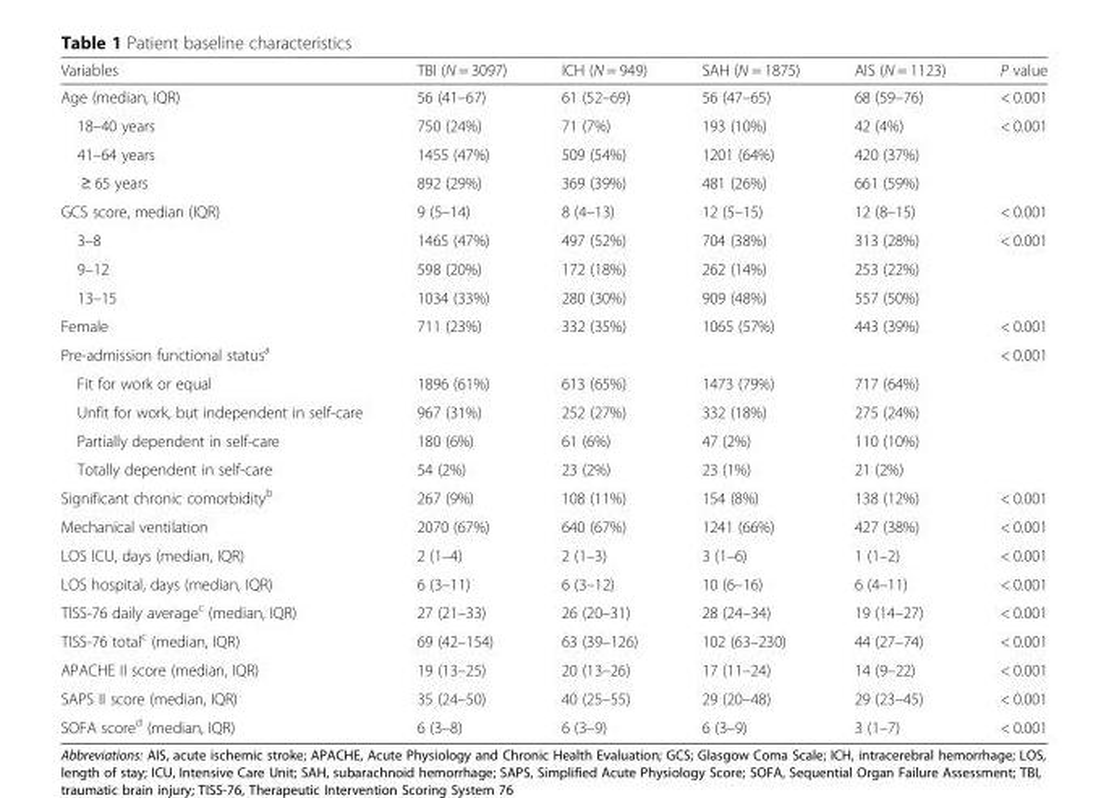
<table><thead><tr><td>Variables</td><td>TBI (N = 3097)</td><td>ICH (N = 949)</td><td>SAH (N = 1875)</td><td>AIS (N = 1123)</td><td>P value</td></tr></thead><tbody><tr><td>Age (median, IQR)</td><td>56 (41–67)</td><td>61 (52–69)</td><td>56 (47–65)</td><td>68 (59–76)</td><td>&lt; 0.001</td></tr><tr><td>18–40 years</td><td>750 (24%)</td><td>71 (7%)</td><td>193 (10%)</td><td>42 (4%)</td><td>&lt; 0.001</td></tr><tr><td>41–64 years</td><td>1455 (47%)</td><td>509 (54%)</td><td>1201 (64%)</td><td>420 (37%)</td><td></td></tr><tr><td>≥ 65 years</td><td>892 (29%)</td><td>369 (39%)</td><td>481 (26%)</td><td>661 (59%)</td><td></td></tr><tr><td>GCS score, median (IQR)</td><td>9 (5–14)</td><td>8 (4–13)</td><td>12 (5–15)</td><td>12 (8–15)</td><td>&lt; 0.001</td></tr><tr><td>3–8</td><td>1465 (47%)</td><td>497 (52%)</td><td>704 (38%)</td><td>313 (28%)</td><td>&lt; 0.001</td></tr><tr><td>9–12</td><td>598 (20%)</td><td>172 (18%)</td><td>262 (14%)</td><td>253 (22%)</td><td></td></tr><tr><td>13–15</td><td>1034 (33%)</td><td>280 (30%)</td><td>909 (48%)</td><td>557 (50%)</td><td></td></tr><tr><td>Female</td><td>711 (23%)</td><td>332 (35%)</td><td>1065 (57%)</td><td>443 (39%)</td><td>&lt; 0.001</td></tr><tr><td>Pre-admission functional status<sup>a</sup></td><td></td><td></td><td></td><td></td><td>&lt; 0.001</td></tr><tr><td>Fit for work or equal</td><td>1896 (61%)</td><td>613 (65%)</td><td>1473 (79%)</td><td>717 (64%)</td><td></td></tr><tr><td>Unfit for work, but independent in self-care</td><td>967 (31%)</td><td>252 (27%)</td><td>332 (18%)</td><td>275 (24%)</td><td></td></tr><tr><td>Partially dependent in self-care</td><td>180 (6%)</td><td>61 (6%)</td><td>47 (2%)</td><td>110 (10%)</td><td></td></tr><tr><td>Totally dependent in self-care</td><td>54 (2%)</td><td>23 (2%)</td><td>23 (1%)</td><td>21 (2%)</td><td></td></tr><tr><td>Significant chronic comorbidity<sup>b</sup></td><td>267 (9%)</td><td>108 (11%)</td><td>154 (8%)</td><td>138 (12%)</td><td>&lt; 0.001</td></tr><tr><td>Mechanical ventilation</td><td>2070 (67%)</td><td>640 (67%)</td><td>1241 (66%)</td><td>427 (38%)</td><td>&lt; 0.001</td></tr><tr><td>LOS ICU, days (median, IQR)</td><td>2 (1–4)</td><td>2 (1–3)</td><td>3 (1–6)</td><td>1 (1–2)</td><td>&lt; 0.001</td></tr><tr><td>LOS hospital, days (median, IQR)</td><td>6 (3–11)</td><td>6 (3–12)</td><td>10 (6–16)</td><td>6 (4–11)</td><td>&lt; 0.001</td></tr><tr><td>TISS-76 daily average<sup>c</sup> (median, IQR)</td><td>27 (21–33)</td><td>26 (20–31)</td><td>28 (24–34)</td><td>19 (14–27)</td><td>&lt; 0.001</td></tr><tr><td>TISS-76 total<sup>c</sup> (median, IQR)</td><td>69 (42–154)</td><td>63 (39–126)</td><td>102 (63–230)</td><td>44 (27–74)</td><td>&lt; 0.001</td></tr><tr><td>APACHE II score (median, IQR)</td><td>19 (13–25)</td><td>20 (13–26)</td><td>17 (11–24)</td><td>14 (9–22)</td><td>&lt; 0.001</td></tr><tr><td>SAPS II score (median, IQR)</td><td>35 (24–50)</td><td>40 (25–55)</td><td>29 (20–48)</td><td>29 (23–45)</td><td>&lt; 0.001</td></tr><tr><td>SOFA score<sup>d</sup> (median, IQR)</td><td>6 (3–8)</td><td>6 (3–9)</td><td>6 (3–9)</td><td>3 (1–7)</td><td>&lt; 0.001</td></tr></tbody></table>